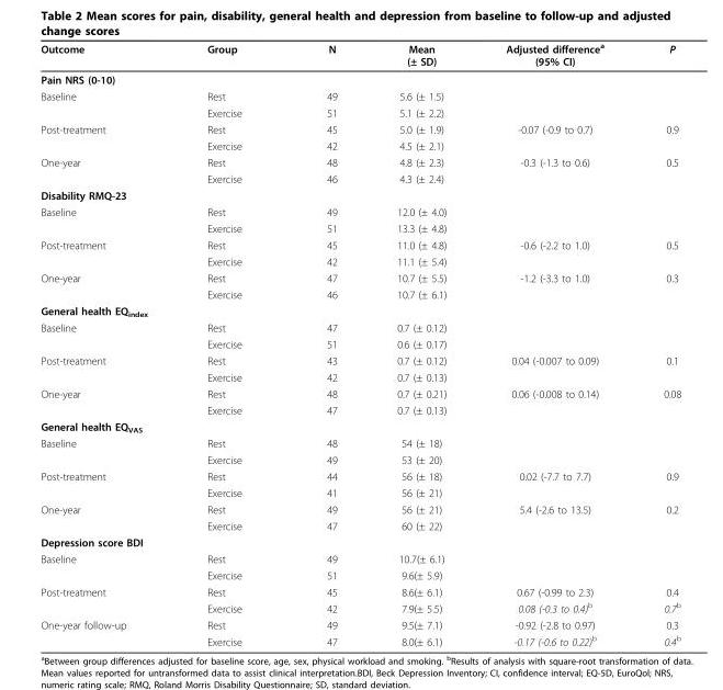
<table><thead><tr><td>Outcome</td><td>Group</td><td>N</td><td>Mean (± SD)</td><td>Adjusted difference<sup>a</sup> (95% CI)</td><td>P</td></tr></thead><tbody><tr><td colspan="6">Pain NRS (0-10)</td></tr><tr><td rowspan="2">Baseline</td><td>Rest</td><td>49</td><td>5.6 (± 1.5)</td><td></td><td></td></tr><tr><td>Exercise</td><td>51</td><td>5.1 (± 2.2)</td><td></td><td></td></tr><tr><td rowspan="2">Post-treatment</td><td>Rest</td><td>45</td><td>5.0 (± 1.9)</td><td>-0.07 (-0.9 to 0.7)</td><td>0.9</td></tr><tr><td>Exercise</td><td>42</td><td>4.5 (± 2.1)</td><td></td><td></td></tr><tr><td rowspan="2">One-year</td><td>Rest</td><td>48</td><td>4.8 (± 2.3)</td><td>-0.3 (-1.3 to 0.6)</td><td>0.5</td></tr><tr><td>Exercise</td><td>46</td><td>4.3 (± 2.4)</td><td></td><td></td></tr><tr><td colspan="6">Disability RMQ-23</td></tr><tr><td rowspan="2">Baseline</td><td>Rest</td><td>49</td><td>12.0 (± 4.0)</td><td></td><td></td></tr><tr><td>Exercise</td><td>51</td><td>13.3 (± 4.8)</td><td></td><td></td></tr><tr><td rowspan="2">Post-treatment</td><td>Rest</td><td>45</td><td>11.0 (± 4.8)</td><td>-0.6 (-2.2 to 1.0)</td><td>0.5</td></tr><tr><td>Exercise</td><td>42</td><td>11.1 (± 5.4)</td><td></td><td></td></tr><tr><td rowspan="2">One-year</td><td>Rest</td><td>47</td><td>10.7 (± 5.5)</td><td>-1.2 (-3.3 to 1.0)</td><td>0.3</td></tr><tr><td>Exercise</td><td>46</td><td>10.7 (± 6.1)</td><td></td><td></td></tr><tr><td colspan="6">General health EQ<sub>index</sub></td></tr><tr><td rowspan="2">Baseline</td><td>Rest</td><td>47</td><td>0.7 (± 0.12)</td><td></td><td></td></tr><tr><td>Exercise</td><td>51</td><td>0.6 (± 0.17)</td><td></td><td></td></tr><tr><td rowspan="2">Post-treatment</td><td>Rest</td><td>43</td><td>0.7 (± 0.12)</td><td>0.04 (-0.007 to 0.09)</td><td>0.1</td></tr><tr><td>Exercise</td><td>42</td><td>0.7 (± 0.13)</td><td></td><td></td></tr><tr><td rowspan="2">One-year</td><td>Rest</td><td>48</td><td>0.7 (± 0.21)</td><td>0.06 (-0.008 to 0.14)</td><td>0.08</td></tr><tr><td>Exercise</td><td>47</td><td>0.7 (± 0.13)</td><td></td><td></td></tr><tr><td colspan="6">General health EQ<sub>VAS</sub></td></tr><tr><td rowspan="2">Baseline</td><td>Rest</td><td>48</td><td>54 (± 18)</td><td></td><td></td></tr><tr><td>Exercise</td><td>49</td><td>53 (± 20)</td><td></td><td></td></tr><tr><td rowspan="2">Post-treatment</td><td>Rest</td><td>44</td><td>56 (± 18)</td><td>0.02 (-7.7 to 7.7)</td><td>0.9</td></tr><tr><td>Exercise</td><td>41</td><td>56 (± 21)</td><td></td><td></td></tr><tr><td rowspan="2">One-year</td><td>Rest</td><td>49</td><td>56 (± 21)</td><td>5.4 (-2.6 to 13.5)</td><td>0.2</td></tr><tr><td>Exercise</td><td>47</td><td>60 (± 22)</td><td></td><td></td></tr><tr><td colspan="6">Depression score BDI</td></tr><tr><td rowspan="2">Baseline</td><td>Rest</td><td>49</td><td>10.7(± 6.1)</td><td></td><td></td></tr><tr><td>Exercise</td><td>51</td><td>9.6(± 5.9)</td><td></td><td></td></tr><tr><td rowspan="2">Post-treatment</td><td>Rest</td><td>45</td><td>8.6(± 6.1)</td><td>0.67 (-0.99 to 2.3)</td><td>0.4</td></tr><tr><td>Exercise</td><td>42</td><td>7.9(± 5.5)</td><td>0.08 (-0.3 to 0.4)<sup>b</sup></td><td>0.7<sup>b</sup></td></tr><tr><td rowspan="2">One-year follow-up</td><td>Rest</td><td>49</td><td>9.5(± 7.1)</td><td>-0.92 (-2.8 to 0.97)</td><td>0.3</td></tr><tr><td>Exercise</td><td>47</td><td>8.0(± 6.1)</td><td>-0.17 (-0.6 to 0.22)<sup>b</sup></td><td>0.4<sup>b</sup></td></tr></tbody></table>